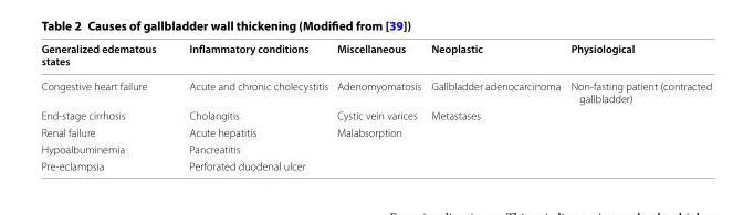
<table><thead><tr><td>Generalized edematous states</td><td>Inflammatory conditions</td><td>Miscellaneous</td><td>Neoplastic</td><td>Physiological</td></tr></thead><tbody><tr><td>Congestive heart failure</td><td>Acute and chronic cholecystitis</td><td>Adenomyomatosis</td><td>Gallbladder adenocarcinoma</td><td>Non-fasting patient (contracted gallbladder)</td></tr><tr><td>End-stage cirrhosis</td><td>Cholangitis</td><td>Cystic vein varices</td><td>Metastases</td><td></td></tr><tr><td>Renal failure</td><td>Acute hepatitis</td><td>Malabsorption</td><td></td><td></td></tr><tr><td>Hypoalbuminemia</td><td>Pancreatitis</td><td></td><td></td><td></td></tr><tr><td>Pre-eclampsia</td><td>Perforated duodenal ulcer</td><td></td><td></td><td></td></tr></tbody></table>